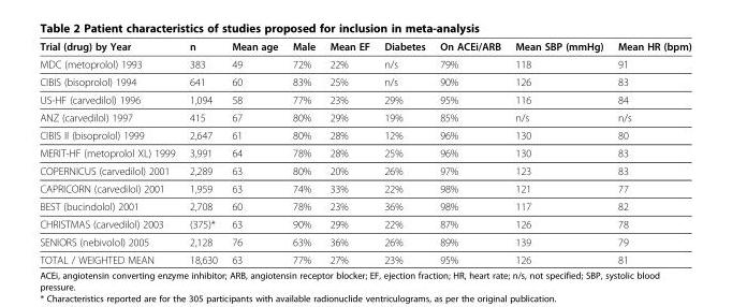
<table><thead><tr><td>Trial (drug) by Year</td><td>n</td><td>Mean age</td><td>Male</td><td>Mean EF</td><td>Diabetes</td><td>On ACEi/ARB</td><td>Mean SBP (mmHg)</td><td>Mean HR (bpm)</td></tr></thead><tbody><tr><td>MDC (metoprolol) 1993</td><td>383</td><td>49</td><td>72%</td><td>22%</td><td>n/s</td><td>79%</td><td>118</td><td>91</td></tr><tr><td>CIBIS (bisoprolol) 1994</td><td>641</td><td>60</td><td>83%</td><td>25%</td><td>n/s</td><td>90%</td><td>126</td><td>83</td></tr><tr><td>US-HF (carvedilol) 1996</td><td>1,094</td><td>58</td><td>77%</td><td>23%</td><td>29%</td><td>95%</td><td>116</td><td>84</td></tr><tr><td>ANZ (carvedilol) 1997</td><td>415</td><td>67</td><td>80%</td><td>29%</td><td>19%</td><td>85%</td><td>n/s</td><td>n/s</td></tr><tr><td>CIBIS II (bisoprolol) 1999</td><td>2,647</td><td>61</td><td>80%</td><td>28%</td><td>12%</td><td>96%</td><td>130</td><td>80</td></tr><tr><td>MERIT-HF (metoprolol XL) 1999</td><td>3,991</td><td>64</td><td>78%</td><td>28%</td><td>25%</td><td>96%</td><td>130</td><td>83</td></tr><tr><td>COPERNICUS (carvedilol) 2001</td><td>2,289</td><td>63</td><td>80%</td><td>20%</td><td>26%</td><td>97%</td><td>123</td><td>83</td></tr><tr><td>CAPRICORN (carvedilol) 2001</td><td>1,959</td><td>63</td><td>74%</td><td>33%</td><td>22%</td><td>98%</td><td>121</td><td>77</td></tr><tr><td>BEST (bucindolol) 2001</td><td>2,708</td><td>60</td><td>78%</td><td>23%</td><td>36%</td><td>98%</td><td>117</td><td>82</td></tr><tr><td>CHRISTMAS (carvedilol) 2003</td><td>(375)*</td><td>63</td><td>90%</td><td>29%</td><td>22%</td><td>87%</td><td>126</td><td>78</td></tr><tr><td>SENIORS (nebivolol) 2005</td><td>2,128</td><td>76</td><td>63%</td><td>36%</td><td>26%</td><td>89%</td><td>139</td><td>79</td></tr><tr><td>TOTAL / WEIGHTED MEAN</td><td>18,630</td><td>63</td><td>77%</td><td>27%</td><td>23%</td><td>95%</td><td>126</td><td>81</td></tr></tbody></table>